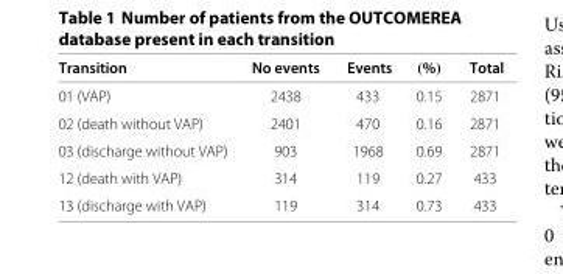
<table><thead><tr><td>Transition</td><td>No events</td><td>Events</td><td>(%)</td><td>Total</td></tr></thead><tbody><tr><td>01 (VAP)</td><td>2438</td><td>433</td><td>0.15</td><td>2871</td></tr><tr><td>02 (death without VAP)</td><td>2401</td><td>470</td><td>0.16</td><td>2871</td></tr><tr><td>03 (discharge without VAP)</td><td>903</td><td>1968</td><td>0.69</td><td>2871</td></tr><tr><td>12 (death with VAP)</td><td>314</td><td>119</td><td>0.27</td><td>433</td></tr><tr><td>13 (discharge with VAP)</td><td>119</td><td>314</td><td>0.73</td><td>433</td></tr></tbody></table>